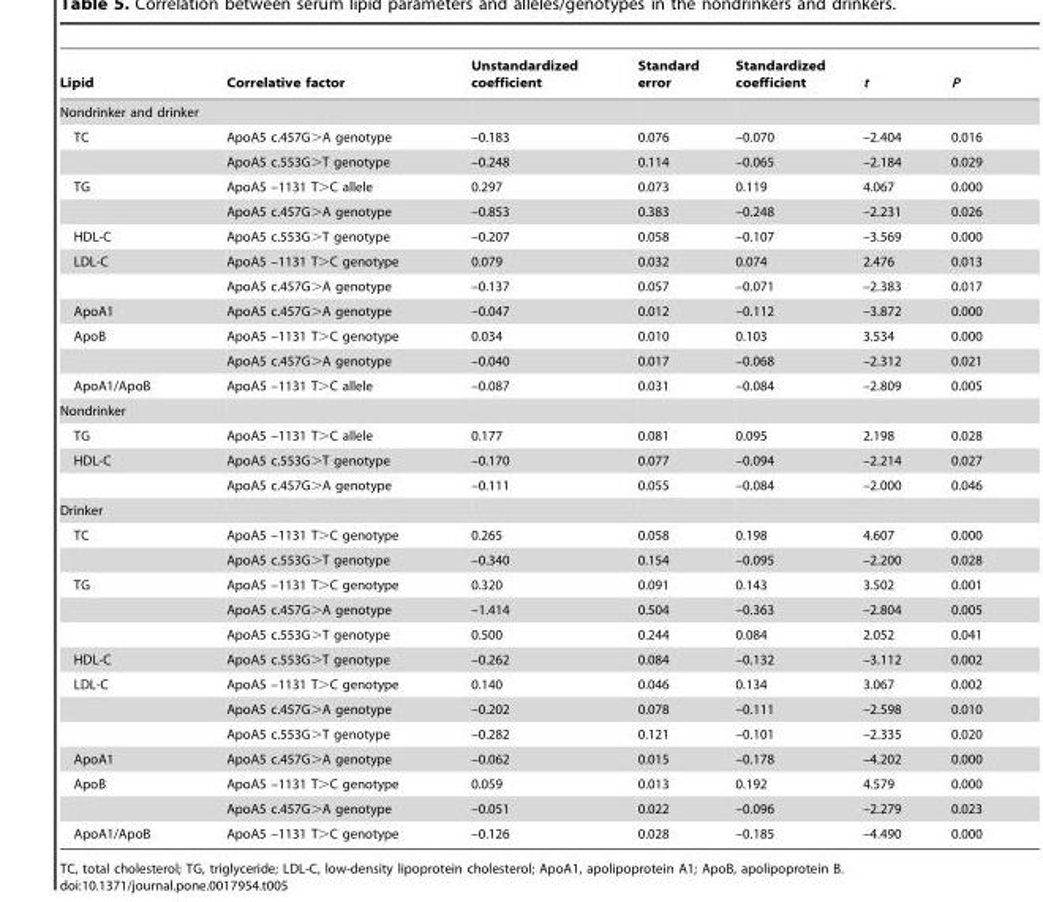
<table><thead><tr><td>Lipid</td><td>Correlative factor</td><td>Unstandardized coefficient</td><td>Standard error</td><td>Standardized coefficient</td><td>t</td><td>P</td></tr></thead><tbody><tr><td colspan="7">Nondrinker and drinker</td></tr><tr><td rowspan="2">TC</td><td>ApoA5 c.457G&gt;A genotype</td><td>–0.183</td><td>0.076</td><td>–0.070</td><td>–2.404</td><td>0.016</td></tr><tr><td>ApoA5 c.553G&gt;T genotype</td><td>–0.248</td><td>0.114</td><td>–0.065</td><td>–2.184</td><td>0.029</td></tr><tr><td rowspan="2">TG</td><td>ApoA5 –1131 T&gt;C allele</td><td>0.297</td><td>0.073</td><td>0.119</td><td>4.067</td><td>0.000</td></tr><tr><td>ApoA5 c.457G&gt;A genotype</td><td>–0.853</td><td>0.383</td><td>–0.248</td><td>–2.231</td><td>0.026</td></tr><tr><td>HDL-C</td><td>ApoA5 c.553G&gt;T genotype</td><td>–0.207</td><td>0.058</td><td>–0.107</td><td>–3.569</td><td>0.000</td></tr><tr><td rowspan="2">LDL-C</td><td>ApoA5 –1131 T&gt;C genotype</td><td>0.079</td><td>0.032</td><td>0.074</td><td>2.476</td><td>0.013</td></tr><tr><td>ApoA5 c.457G&gt;A genotype</td><td>–0.137</td><td>0.057</td><td>–0.071</td><td>–2.383</td><td>0.017</td></tr><tr><td>ApoA1</td><td>ApoA5 c.457G&gt;A genotype</td><td>–0.047</td><td>0.012</td><td>–0.112</td><td>–3.872</td><td>0.000</td></tr><tr><td rowspan="2">ApoB</td><td>ApoA5 –1131 T&gt;C genotype</td><td>0.034</td><td>0.010</td><td>0.103</td><td>3.534</td><td>0.000</td></tr><tr><td>ApoA5 c.457G&gt;A genotype</td><td>–0.040</td><td>0.017</td><td>–0.068</td><td>–2.312</td><td>0.021</td></tr><tr><td>ApoA1/ApoB</td><td>ApoA5 –1131 T&gt;C allele</td><td>–0.087</td><td>0.031</td><td>–0.084</td><td>–2.809</td><td>0.005</td></tr><tr><td colspan="7">Nondrinker</td></tr><tr><td>TG</td><td>ApoA5 –1131 T&gt;C allele</td><td>0.177</td><td>0.081</td><td>0.095</td><td>2.198</td><td>0.028</td></tr><tr><td rowspan="2">HDL-C</td><td>ApoA5 c.553G&gt;T genotype</td><td>–0.170</td><td>0.077</td><td>–0.094</td><td>–2.214</td><td>0.027</td></tr><tr><td>ApoA5 c.457G&gt;A genotype</td><td>–0.111</td><td>0.055</td><td>–0.084</td><td>–2.000</td><td>0.046</td></tr><tr><td colspan="7">Drinker</td></tr><tr><td rowspan="2">TC</td><td>ApoA5 –1131 T&gt;C genotype</td><td>0.265</td><td>0.058</td><td>0.198</td><td>4.607</td><td>0.000</td></tr><tr><td>ApoA5 c.553G&gt;T genotype</td><td>–0.340</td><td>0.154</td><td>–0.095</td><td>–2.200</td><td>0.028</td></tr><tr><td rowspan="3">TG</td><td>ApoA5 –1131 T&gt;C genotype</td><td>0.320</td><td>0.091</td><td>0.143</td><td>3.502</td><td>0.001</td></tr><tr><td>ApoA5 c.457G&gt;A genotype</td><td>–1.414</td><td>0.504</td><td>–0.363</td><td>–2.804</td><td>0.005</td></tr><tr><td>ApoA5 c.553G&gt;T genotype</td><td>0.500</td><td>0.244</td><td>0.084</td><td>2.052</td><td>0.041</td></tr><tr><td>HDL-C</td><td>ApoA5 c.553G&gt;T genotype</td><td>–0.262</td><td>0.084</td><td>–0.132</td><td>–3.112</td><td>0.002</td></tr><tr><td rowspan="3">LDL-C</td><td>ApoA5 –1131 T&gt;C genotype</td><td>0.140</td><td>0.046</td><td>0.134</td><td>3.067</td><td>0.002</td></tr><tr><td>ApoA5 c.457G&gt;A genotype</td><td>–0.202</td><td>0.078</td><td>–0.111</td><td>–2.598</td><td>0.010</td></tr><tr><td>ApoA5 c.553G&gt;T genotype</td><td>–0.282</td><td>0.121</td><td>–0.101</td><td>–2.335</td><td>0.020</td></tr><tr><td>ApoA1</td><td>ApoA5 c.457G&gt;A genotype</td><td>–0.062</td><td>0.015</td><td>–0.178</td><td>–4.202</td><td>0.000</td></tr><tr><td rowspan="2">ApoB</td><td>ApoA5 –1131 T&gt;C genotype</td><td>0.059</td><td>0.013</td><td>0.192</td><td>4.579</td><td>0.000</td></tr><tr><td>ApoA5 c.457G&gt;A genotype</td><td>–0.051</td><td>0.022</td><td>–0.096</td><td>–2.279</td><td>0.023</td></tr><tr><td>ApoA1/ApoB</td><td>ApoA5 –1131 T&gt;C genotype</td><td>–0.126</td><td>0.028</td><td>–0.185</td><td>–4.490</td><td>0.000</td></tr></tbody></table>